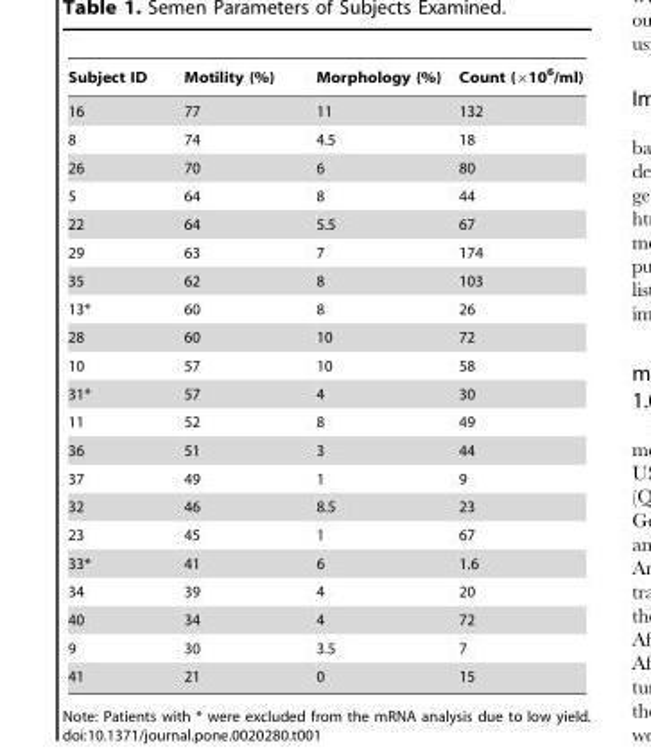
<table><thead><tr><td>Subject ID</td><td>Motility (%)</td><td>Morphology (%)</td><td>Count (×10<sup>6</sup>/ml)</td></tr></thead><tbody><tr><td>16</td><td>77</td><td>11</td><td>132</td></tr><tr><td>8</td><td>74</td><td>4.5</td><td>18</td></tr><tr><td>26</td><td>70</td><td>6</td><td>80</td></tr><tr><td>5</td><td>64</td><td>8</td><td>44</td></tr><tr><td>22</td><td>64</td><td>5.5</td><td>67</td></tr><tr><td>29</td><td>63</td><td>7</td><td>174</td></tr><tr><td>35</td><td>62</td><td>8</td><td>103</td></tr><tr><td>13*</td><td>60</td><td>8</td><td>26</td></tr><tr><td>28</td><td>60</td><td>10</td><td>72</td></tr><tr><td>10</td><td>57</td><td>10</td><td>58</td></tr><tr><td>31*</td><td>57</td><td>4</td><td>30</td></tr><tr><td>11</td><td>52</td><td>8</td><td>49</td></tr><tr><td>36</td><td>51</td><td>3</td><td>44</td></tr><tr><td>37</td><td>49</td><td>1</td><td>9</td></tr><tr><td>32</td><td>46</td><td>8.5</td><td>23</td></tr><tr><td>23</td><td>45</td><td>1</td><td>67</td></tr><tr><td>33*</td><td>41</td><td>6</td><td>1.6</td></tr><tr><td>34</td><td>39</td><td>4</td><td>20</td></tr><tr><td>40</td><td>34</td><td>4</td><td>72</td></tr><tr><td>9</td><td>30</td><td>3.5</td><td>7</td></tr><tr><td>41</td><td>21</td><td>0</td><td>15</td></tr></tbody></table>